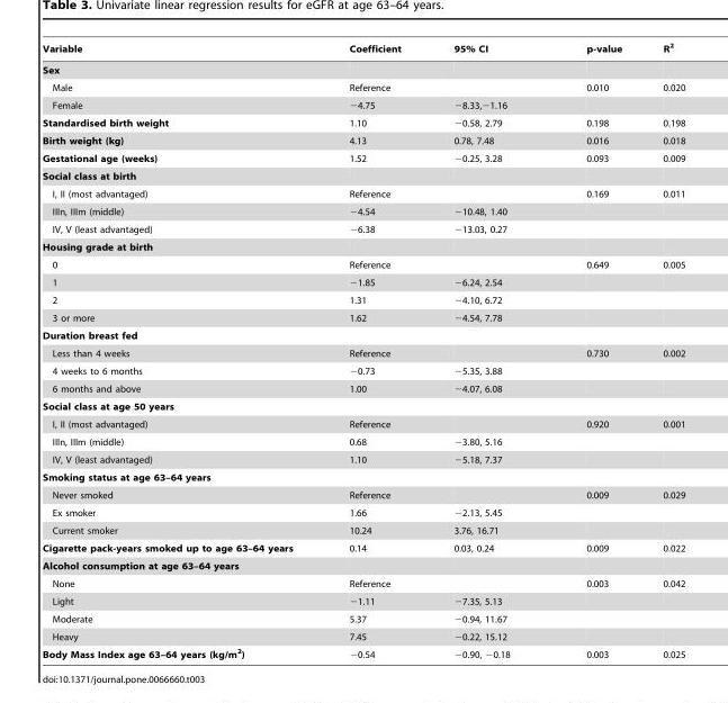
<table><thead><tr><td>Variable</td><td>Coefficient</td><td>95% CI</td><td>p-value</td><td>R<sup>2</sup></td></tr></thead><tbody><tr><td colspan="5">Sex</td></tr><tr><td>Male</td><td>Reference</td><td></td><td>0.010</td><td>0.020</td></tr><tr><td>Female</td><td>−4.75</td><td>−8.33,−1.16</td><td></td><td></td></tr><tr><td>Standardised birth weight</td><td>1.10</td><td>−0.58, 2.79</td><td>0.198</td><td>0.198</td></tr><tr><td>Birth weight (kg)</td><td>4.13</td><td>0.78, 7.48</td><td>0.016</td><td>0.018</td></tr><tr><td>Gestational age (weeks)</td><td>1.52</td><td>−0.25, 3.28</td><td>0.093</td><td>0.009</td></tr><tr><td colspan="5">Social class at birth</td></tr><tr><td>I, II (most advantaged)</td><td>Reference</td><td></td><td>0.169</td><td>0.011</td></tr><tr><td>IIIn, IIIm (middle)</td><td>−4.54</td><td>−10.48, 1.40</td><td></td><td></td></tr><tr><td>IV, V (least advantaged)</td><td>−6.38</td><td>−13.03, 0.27</td><td></td><td></td></tr><tr><td colspan="5">Housing grade at birth</td></tr><tr><td>0</td><td>Reference</td><td></td><td>0.649</td><td>0.005</td></tr><tr><td>1</td><td>−1.85</td><td>−6.24, 2.54</td><td></td><td></td></tr><tr><td>2</td><td>1.31</td><td>−4.10, 6.72</td><td></td><td></td></tr><tr><td>3 or more</td><td>1.62</td><td>−4.54, 7.78</td><td></td><td></td></tr><tr><td colspan="5">Duration breast fed</td></tr><tr><td>Less than 4 weeks</td><td>Reference</td><td></td><td>0.730</td><td>0.002</td></tr><tr><td>4 weeks to 6 months</td><td>−0.73</td><td>−5.35, 3.88</td><td></td><td></td></tr><tr><td>6 months and above</td><td>1.00</td><td>−4.07, 6.08</td><td></td><td></td></tr><tr><td colspan="5">Social class at age 50 years</td></tr><tr><td>I, II (most advantaged)</td><td>Reference</td><td></td><td>0.920</td><td>0.001</td></tr><tr><td>IIIn, IIIm (middle)</td><td>0.68</td><td>−3.80, 5.16</td><td></td><td></td></tr><tr><td>IV, V (least advantaged)</td><td>1.10</td><td>−5.18, 7.37</td><td></td><td></td></tr><tr><td colspan="5">Smoking status at age 63–64 years</td></tr><tr><td>Never smoked</td><td>Reference</td><td></td><td>0.009</td><td>0.029</td></tr><tr><td>Ex smoker</td><td>1.66</td><td>−2.13, 5.45</td><td></td><td></td></tr><tr><td>Current smoker</td><td>10.24</td><td>3.76, 16.71</td><td></td><td></td></tr><tr><td>Cigarette pack-years smoked up to age 63–64 years</td><td>0.14</td><td>0.03, 0.24</td><td>0.009</td><td>0.022</td></tr><tr><td colspan="5">Alcohol consumption at age 63–64 years</td></tr><tr><td>None</td><td>Reference</td><td></td><td>0.003</td><td>0.042</td></tr><tr><td>Light</td><td>−1.11</td><td>−7.35, 5.13</td><td></td><td></td></tr><tr><td>Moderate</td><td>5.37</td><td>−0.94, 11.67</td><td></td><td></td></tr><tr><td>Heavy</td><td>7.45</td><td>−0.22, 15.12</td><td></td><td></td></tr><tr><td>Body Mass Index age 63–64 years (kg/m<sup>2</sup>)</td><td>−0.54</td><td>−0.90, −0.18</td><td>0.003</td><td>0.025</td></tr></tbody></table>